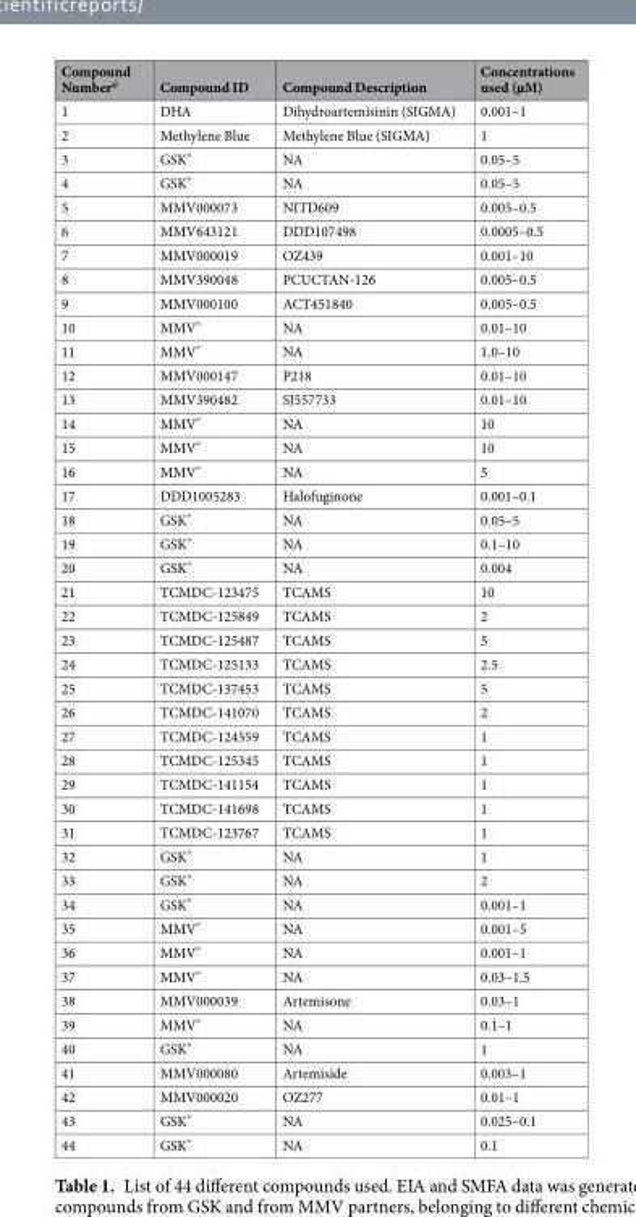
<table><thead><tr><td>Compound Number<sup>@</sup></td><td>Compound ID</td><td>Compound Description</td><td>Concentrations used (µM)</td></tr></thead><tbody><tr><td>1</td><td>DHA</td><td>Dihydroartemisinin (SIGMA)</td><td>0.001–1</td></tr><tr><td>2</td><td>Methylene Blue</td><td>Methylene Blue (SIGMA)</td><td>1</td></tr><tr><td>3</td><td>GSK*</td><td>NA</td><td>0.05–5</td></tr><tr><td>4</td><td>GSK*</td><td>NA</td><td>0.05–5</td></tr><tr><td>5</td><td>MMV000073</td><td>NITD609</td><td>0.005–0.5</td></tr><tr><td>6</td><td>MMV643121</td><td>DDD107498</td><td>0.0005–0.5</td></tr><tr><td>7</td><td>MMV000019</td><td>OZ439</td><td>0.001–10</td></tr><tr><td>8</td><td>MMV390048</td><td>PCUCTAN-126</td><td>0.005–0.5</td></tr><tr><td>9</td><td>MMV000100</td><td>ACT451840</td><td>0.005–0.5</td></tr><tr><td>10</td><td>MMV*</td><td>NA</td><td>0.01–10</td></tr><tr><td>11</td><td>MMV*</td><td>NA</td><td>1.0–10</td></tr><tr><td>12</td><td>MMV000147</td><td>P218</td><td>0.01–10</td></tr><tr><td>13</td><td>MMV390482</td><td>SJ557733</td><td>0.01–10</td></tr><tr><td>14</td><td>MMV*</td><td>NA</td><td>10</td></tr><tr><td>15</td><td>MMV*</td><td>NA</td><td>10</td></tr><tr><td>16</td><td>MMV*</td><td>NA</td><td>5</td></tr><tr><td>17</td><td>DDD1005283</td><td>Halofuginone</td><td>0.001–0.1</td></tr><tr><td>18</td><td>GSK*</td><td>NA</td><td>0.05–5</td></tr><tr><td>19</td><td>GSK*</td><td>NA</td><td>0.1–10</td></tr><tr><td>20</td><td>GSK*</td><td>NA</td><td>0.004</td></tr><tr><td>21</td><td>TCMDC-123475</td><td>TCAMS</td><td>10</td></tr><tr><td>22</td><td>TCMDC-125849</td><td>TCAMS</td><td>2</td></tr><tr><td>23</td><td>TCMDC-125487</td><td>TCAMS</td><td>5</td></tr><tr><td>24</td><td>TCMDC-125133</td><td>TCAMS</td><td>2.5</td></tr><tr><td>25</td><td>TCMDC-137453</td><td>TCAMS</td><td>5</td></tr><tr><td>26</td><td>TCMDC-141070</td><td>TCAMS</td><td>2</td></tr><tr><td>27</td><td>TCMDC-124559</td><td>TCAMS</td><td>1</td></tr><tr><td>28</td><td>TCMDC-125345</td><td>TCAMS</td><td>1</td></tr><tr><td>29</td><td>TCMDC-141154</td><td>TCAMS</td><td>1</td></tr><tr><td>30</td><td>TCMDC-141698</td><td>TCAMS</td><td>1</td></tr><tr><td>31</td><td>TCMDC-123767</td><td>TCAMS</td><td>1</td></tr><tr><td>32</td><td>GSK*</td><td>NA</td><td>1</td></tr><tr><td>33</td><td>GSK*</td><td>NA</td><td>2</td></tr><tr><td>34</td><td>GSK*</td><td>NA</td><td>0.001–1</td></tr><tr><td>35</td><td>MMV*</td><td>NA</td><td>0.001–5</td></tr><tr><td>36</td><td>MMV*</td><td>NA</td><td>0.001–1</td></tr><tr><td>37</td><td>MMV*</td><td>NA</td><td>0.03–1.5</td></tr><tr><td>38</td><td>MMV000039</td><td>Artemisone</td><td>0.03–1</td></tr><tr><td>39</td><td>MMV*</td><td>NA</td><td>0.1–1</td></tr><tr><td>40</td><td>GSK*</td><td>NA</td><td>1</td></tr><tr><td>41</td><td>MMV000080</td><td>Artemiside</td><td>0.003–1</td></tr><tr><td>42</td><td>MMV000020</td><td>OZ277</td><td>0.01–1</td></tr><tr><td>43</td><td>GSK*</td><td>NA</td><td>0.025–0.1</td></tr><tr><td>44</td><td>GSK*</td><td>NA</td><td>0.1</td></tr></tbody></table>